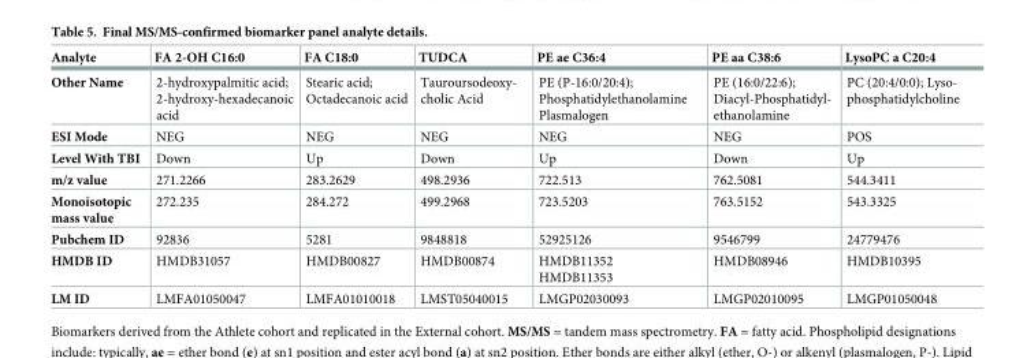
<table><thead><tr><td>Analyte</td><td>FA 2-OH C16:0</td><td>FA C18:0</td><td>TUDCA</td><td>PE ae C36:4</td><td>PE aa C38:6</td><td>LysoPC a C20:4</td></tr></thead><tbody><tr><td>Other Name</td><td>2-hydroxypalmitic acid; 2-hydroxy-hexadecanoic acid</td><td>Stearic acid; Octadecanoic acid</td><td>Tauroursodeoxy- cholic Acid</td><td>PE (P-16:0/20:4); Phosphatidylethanolamine Plasmalogen</td><td>PE (16:0/22:6); Diacyl-Phosphatidyl- ethanolamine</td><td>PC (20:4/0:0); Lyso- phosphatidylcholine</td></tr><tr><td>ESI Mode</td><td>NEG</td><td>NEG</td><td>NEG</td><td>NEG</td><td>NEG</td><td>POS</td></tr><tr><td>Level With TBI</td><td>Down</td><td>Up</td><td>Down</td><td>Up</td><td>Down</td><td>Up</td></tr><tr><td>m/z value</td><td>271.2266</td><td>283.2629</td><td>498.2936</td><td>722.513</td><td>762.5081</td><td>544.3411</td></tr><tr><td>Monoisotopic mass value</td><td>272.235</td><td>284.272</td><td>499.2968</td><td>723.5203</td><td>763.5152</td><td>543.3325</td></tr><tr><td>Pubchem ID</td><td>92836</td><td>5281</td><td>9848818</td><td>52925126</td><td>9546799</td><td>24779476</td></tr><tr><td>HMDB ID</td><td>HMDB31057</td><td>HMDB00827</td><td>HMDB00874</td><td>HMDB11352 HMDB11353</td><td>HMDB08946</td><td>HMDB10395</td></tr><tr><td>LM ID</td><td>LMFA01050047</td><td>LMFA01010018</td><td>LMST05040015</td><td>LMGP02030093</td><td>LMGP02010095</td><td>LMGP01050048</td></tr></tbody></table>